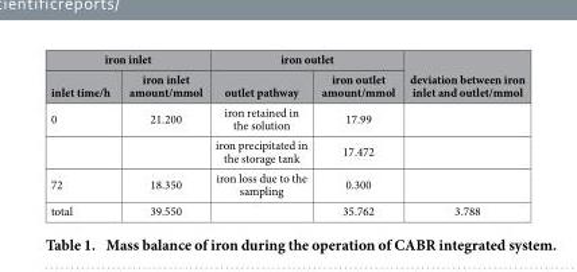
<table><thead><tr><td colspan="2">iron inlet</td><td colspan="2">iron outlet</td><td rowspan="2">deviation between iron inlet and outlet/mmol</td></tr><tr><td>inlet time/h</td><td>iron inlet amount/mmol</td><td>outlet pathway</td><td>iron outlet amount/mmol</td></tr></thead><tbody><tr><td rowspan="2">0</td><td>21.200</td><td>iron retained in the solution</td><td>17.99</td><td></td></tr><tr><td></td><td>iron precipitated in the storage tank</td><td>17.472</td><td></td></tr><tr><td>72</td><td>18.350</td><td>iron loss due to the sampling</td><td>0.300</td><td></td></tr><tr><td>total</td><td>39.550</td><td></td><td>35.762</td><td>3.788</td></tr></tbody></table>